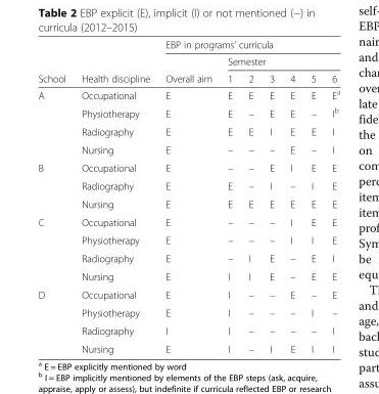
<table><thead><tr><td rowspan="3">School</td><td rowspan="3">Health discipline</td><td colspan="7">EBP in programs’ curricula</td></tr><tr><td rowspan="2">Overall aim</td><td colspan="6">Semester</td></tr><tr><td>1</td><td>2</td><td>3</td><td>4</td><td>5</td><td>6</td></tr></thead><tbody><tr><td rowspan="4">A</td><td>Occupational</td><td>E</td><td>E</td><td>E</td><td>E</td><td>E</td><td>E</td><td>E<sup>a</sup></td></tr><tr><td>Physiotherapy</td><td>E</td><td>E</td><td>–</td><td>E</td><td>E</td><td>–</td><td>I<sup>b</sup></td></tr><tr><td>Radiography</td><td>E</td><td>E</td><td>E</td><td>I</td><td>E</td><td>E</td><td>I</td></tr><tr><td>Nursing</td><td>E</td><td>–</td><td>–</td><td>–</td><td>E</td><td>–</td><td>I</td></tr><tr><td rowspan="3">B</td><td>Occupational</td><td>E</td><td>–</td><td>–</td><td>E</td><td>I</td><td>E</td><td>E</td></tr><tr><td>Radiography</td><td>E</td><td>E</td><td>–</td><td>I</td><td>–</td><td>I</td><td>E</td></tr><tr><td>Nursing</td><td>E</td><td>E</td><td>E</td><td>E</td><td>E</td><td>E</td><td>E</td></tr><tr><td rowspan="4">C</td><td>Occupational</td><td>E</td><td>–</td><td>–</td><td>–</td><td>I</td><td>E</td><td>E</td></tr><tr><td>Physiotherapy</td><td>E</td><td>–</td><td>–</td><td>–</td><td>I</td><td>I</td><td>E</td></tr><tr><td>Radiography</td><td>E</td><td>–</td><td>I</td><td>E</td><td>–</td><td>E</td><td>I</td></tr><tr><td>Nursing</td><td>E</td><td>I</td><td>I</td><td>E</td><td>–</td><td>E</td><td>E</td></tr><tr><td rowspan="4">D</td><td>Occupational</td><td>E</td><td>I</td><td>–</td><td>–</td><td>E</td><td>–</td><td>E</td></tr><tr><td>Physiotherapy</td><td>E</td><td>I</td><td>–</td><td>–</td><td>–</td><td>I</td><td>–</td></tr><tr><td>Radiography</td><td>I</td><td>I</td><td>–</td><td>–</td><td>–</td><td>–</td><td>I</td></tr><tr><td>Nursing</td><td>E</td><td>I</td><td>–</td><td>I</td><td>E</td><td>I</td><td>I</td></tr></tbody></table>